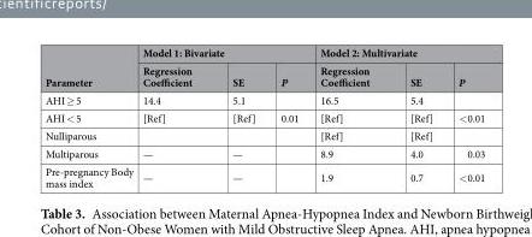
<table><thead><tr><td rowspan="2">Parameter</td><td colspan="3">Model 1: Bivariate</td><td colspan="3">Model 2: Multivariate</td></tr><tr><td>Regression Coefficient</td><td>SE</td><td>P</td><td>Regression Coefficient</td><td>SE</td><td>P</td></tr></thead><tbody><tr><td>AHI ≥ 5</td><td>14.4</td><td>5.1</td><td></td><td>16.5</td><td>5.4</td><td></td></tr><tr><td>AHI &lt; 5</td><td>[Ref]</td><td>[Ref]</td><td>0.01</td><td>[Ref]</td><td>[Ref]</td><td>&lt;0.01</td></tr><tr><td>Nulliparous</td><td></td><td></td><td></td><td>[Ref]</td><td>[Ref]</td><td></td></tr><tr><td>Multiparous</td><td>—</td><td>—</td><td></td><td>8.9</td><td>4.0</td><td>0.03</td></tr><tr><td>Pre-pregnancy Body mass index</td><td>—</td><td>—</td><td></td><td>1.9</td><td>0.7</td><td>&lt;0.01</td></tr></tbody></table>